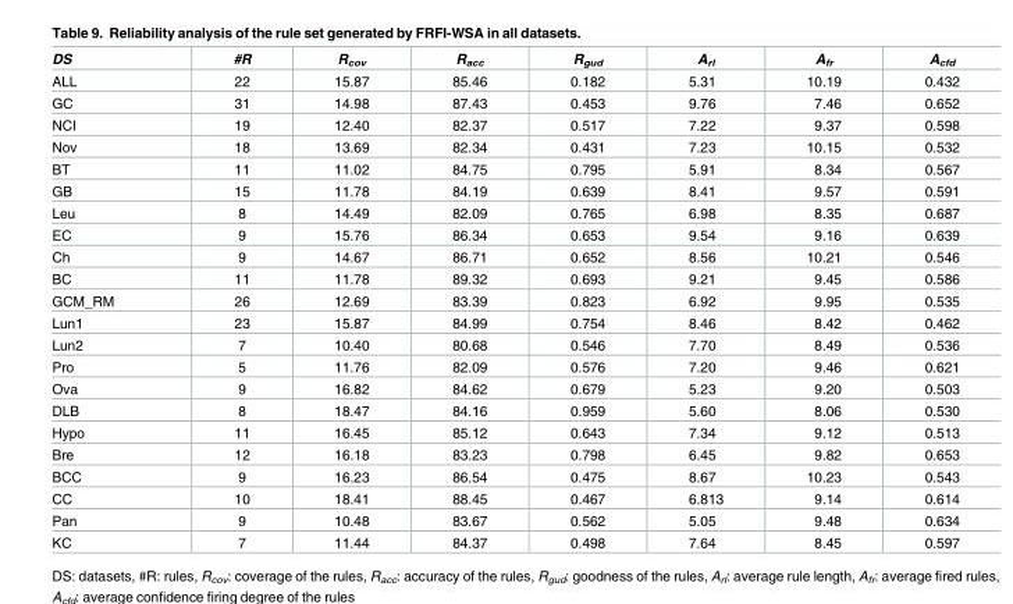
<table><thead><tr><td>DS</td><td>#R</td><td>R<sub>cov</sub></td><td>R<sub>acc</sub></td><td>R<sub>gud</sub></td><td>A<sub>rl</sub></td><td>A<sub>fr</sub></td><td>A<sub>cfd</sub></td></tr></thead><tbody><tr><td>ALL</td><td>22</td><td>15.87</td><td>85.46</td><td>0.182</td><td>5.31</td><td>10.19</td><td>0.432</td></tr><tr><td>GC</td><td>31</td><td>14.98</td><td>87.43</td><td>0.453</td><td>9.76</td><td>7.46</td><td>0.652</td></tr><tr><td>NCI</td><td>19</td><td>12.40</td><td>82.37</td><td>0.517</td><td>7.22</td><td>9.37</td><td>0.598</td></tr><tr><td>Nov</td><td>18</td><td>13.69</td><td>82.34</td><td>0.431</td><td>7.23</td><td>10.15</td><td>0.532</td></tr><tr><td>BT</td><td>11</td><td>11.02</td><td>84.75</td><td>0.795</td><td>5.91</td><td>8.34</td><td>0.567</td></tr><tr><td>GB</td><td>15</td><td>11.78</td><td>84.19</td><td>0.639</td><td>8.41</td><td>9.57</td><td>0.591</td></tr><tr><td>Leu</td><td>8</td><td>14.49</td><td>82.09</td><td>0.765</td><td>6.98</td><td>8.35</td><td>0.687</td></tr><tr><td>EC</td><td>9</td><td>15.76</td><td>86.34</td><td>0.653</td><td>9.54</td><td>9.16</td><td>0.639</td></tr><tr><td>Ch</td><td>9</td><td>14.67</td><td>86.71</td><td>0.652</td><td>8.56</td><td>10.21</td><td>0.546</td></tr><tr><td>BC</td><td>11</td><td>11.78</td><td>89.32</td><td>0.693</td><td>9.21</td><td>9.45</td><td>0.586</td></tr><tr><td>GCM_RM</td><td>26</td><td>12.69</td><td>83.39</td><td>0.823</td><td>6.92</td><td>9.95</td><td>0.535</td></tr><tr><td>Lun1</td><td>23</td><td>15.87</td><td>84.99</td><td>0.754</td><td>8.46</td><td>8.42</td><td>0.462</td></tr><tr><td>Lun2</td><td>7</td><td>10.40</td><td>80.68</td><td>0.546</td><td>7.70</td><td>8.49</td><td>0.536</td></tr><tr><td>Pro</td><td>5</td><td>11.76</td><td>82.09</td><td>0.576</td><td>7.20</td><td>9.46</td><td>0.621</td></tr><tr><td>Ova</td><td>9</td><td>16.82</td><td>84.62</td><td>0.679</td><td>5.23</td><td>9.20</td><td>0.503</td></tr><tr><td>DLB</td><td>8</td><td>18.47</td><td>84.16</td><td>0.959</td><td>5.60</td><td>8.06</td><td>0.530</td></tr><tr><td>Hypo</td><td>11</td><td>16.45</td><td>85.12</td><td>0.643</td><td>7.34</td><td>9.12</td><td>0.513</td></tr><tr><td>Bre</td><td>12</td><td>16.18</td><td>83.23</td><td>0.798</td><td>6.45</td><td>9.82</td><td>0.653</td></tr><tr><td>BCC</td><td>9</td><td>16.23</td><td>86.54</td><td>0.475</td><td>8.67</td><td>10.23</td><td>0.543</td></tr><tr><td>CC</td><td>10</td><td>18.41</td><td>88.45</td><td>0.467</td><td>6.813</td><td>9.14</td><td>0.614</td></tr><tr><td>Pan</td><td>9</td><td>10.48</td><td>83.67</td><td>0.562</td><td>5.05</td><td>9.48</td><td>0.634</td></tr><tr><td>KC</td><td>7</td><td>11.44</td><td>84.37</td><td>0.498</td><td>7.64</td><td>8.45</td><td>0.597</td></tr></tbody></table>